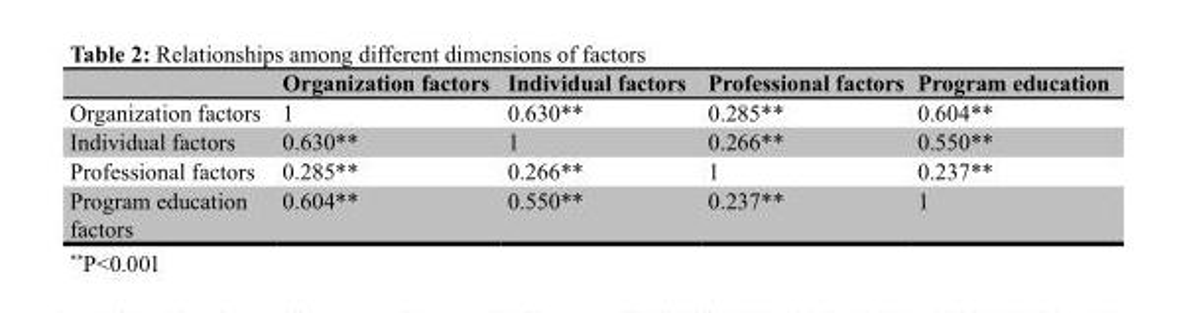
<table><thead><tr><td></td><td>Organization factors</td><td>Individual factors</td><td>Professional factors</td><td>Program education</td></tr></thead><tbody><tr><td>Organization factors</td><td>1</td><td>0.630**</td><td>0.285**</td><td>0.604**</td></tr><tr><td>Individual factors</td><td>0.630**</td><td>1</td><td>0.266**</td><td>0.550**</td></tr><tr><td>Professional factors</td><td>0.285**</td><td>0.266**</td><td>1</td><td>0.237**</td></tr><tr><td>Program education factors</td><td>0.604**</td><td>0.550**</td><td>0.237**</td><td>1</td></tr></tbody></table>